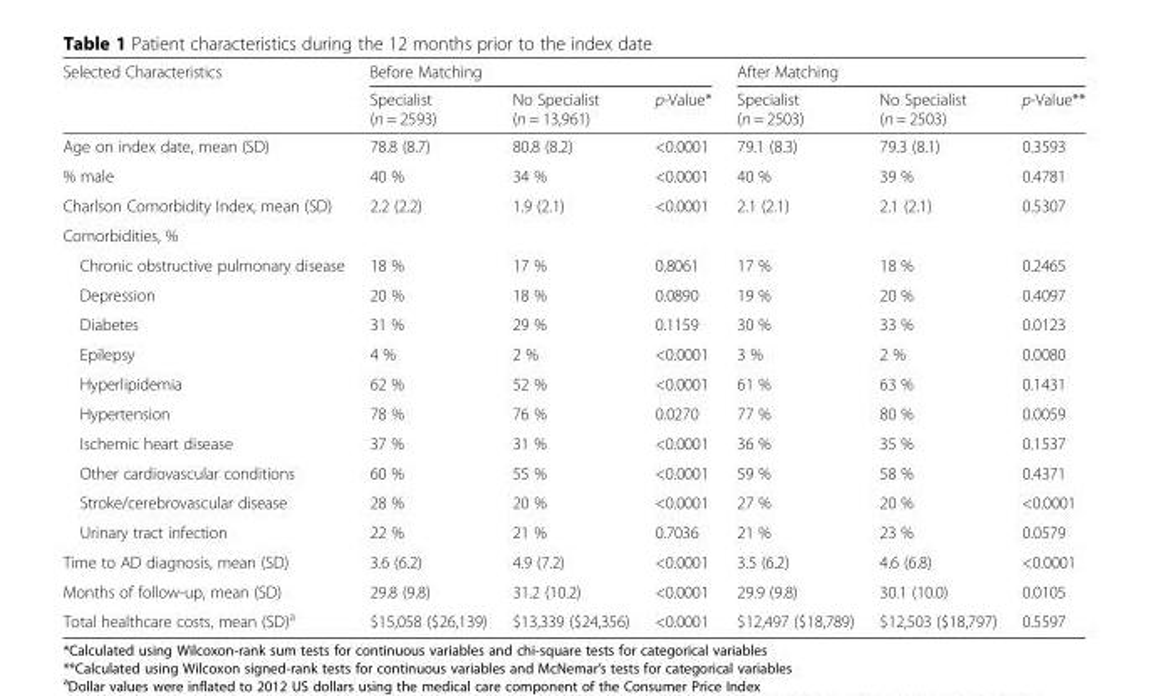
<table><thead><tr><td rowspan="2">Selected Characteristics</td><td colspan="3">Before Matching</td><td colspan="3">After Matching</td></tr><tr><td>Specialist (n = 2593)</td><td>No Specialist (n = 13,961)</td><td>p-Value*</td><td>Specialist (n = 2503)</td><td>No Specialist (n = 2503)</td><td>p-Value**</td></tr></thead><tbody><tr><td>Age on index date, mean (SD)</td><td>78.8 (8.7)</td><td>80.8 (8.2)</td><td>&lt;0.0001</td><td>79.1 (8.3)</td><td>79.3 (8.1)</td><td>0.3593</td></tr><tr><td>% male</td><td>40 %</td><td>34 %</td><td>&lt;0.0001</td><td>40 %</td><td>39 %</td><td>0.4781</td></tr><tr><td>Charlson Comorbidity Index, mean (SD)</td><td>2.2 (2.2)</td><td>1.9 (2.1)</td><td>&lt;0.0001</td><td>2.1 (2.1)</td><td>2.1 (2.1)</td><td>0.5307</td></tr><tr><td colspan="7">Comorbidities, %</td></tr><tr><td>Chronic obstructive pulmonary disease</td><td>18 %</td><td>17 %</td><td>0.8061</td><td>17 %</td><td>18 %</td><td>0.2465</td></tr><tr><td>Depression</td><td>20 %</td><td>18 %</td><td>0.0890</td><td>19 %</td><td>20 %</td><td>0.4097</td></tr><tr><td>Diabetes</td><td>31 %</td><td>29 %</td><td>0.1159</td><td>30 %</td><td>33 %</td><td>0.0123</td></tr><tr><td>Epilepsy</td><td>4 %</td><td>2 %</td><td>&lt;0.0001</td><td>3 %</td><td>2 %</td><td>0.0080</td></tr><tr><td>Hyperlipidemia</td><td>62 %</td><td>52 %</td><td>&lt;0.0001</td><td>61 %</td><td>63 %</td><td>0.1431</td></tr><tr><td>Hypertension</td><td>78 %</td><td>76 %</td><td>0.0270</td><td>77 %</td><td>80 %</td><td>0.0059</td></tr><tr><td>Ischemic heart disease</td><td>37 %</td><td>31 %</td><td>&lt;0.0001</td><td>36 %</td><td>35 %</td><td>0.1537</td></tr><tr><td>Other cardiovascular conditions</td><td>60 %</td><td>55 %</td><td>&lt;0.0001</td><td>59 %</td><td>58 %</td><td>0.4371</td></tr><tr><td>Stroke/cerebrovascular disease</td><td>28 %</td><td>20 %</td><td>&lt;0.0001</td><td>27 %</td><td>20 %</td><td>&lt;0.0001</td></tr><tr><td>Urinary tract infection</td><td>22 %</td><td>21 %</td><td>0.7036</td><td>21 %</td><td>23 %</td><td>0.0579</td></tr><tr><td>Time to AD diagnosis, mean (SD)</td><td>3.6 (6.2)</td><td>4.9 (7.2)</td><td>&lt;0.0001</td><td>3.5 (6.2)</td><td>4.6 (6.8)</td><td>&lt;0.0001</td></tr><tr><td>Months of follow-up, mean (SD)</td><td>29.8 (9.8)</td><td>31.2 (10.2)</td><td>&lt;0.0001</td><td>29.9 (9.8)</td><td>30.1 (10.0)</td><td>0.0105</td></tr><tr><td>Total healthcare costs, mean (SD)<sup>a</sup></td><td>$15,058 ($26,139)</td><td>$13,339 ($24,356)</td><td>&lt;0.0001</td><td>$12,497 ($18,789)</td><td>$12,503 ($18,797)</td><td>0.5597</td></tr></tbody></table>